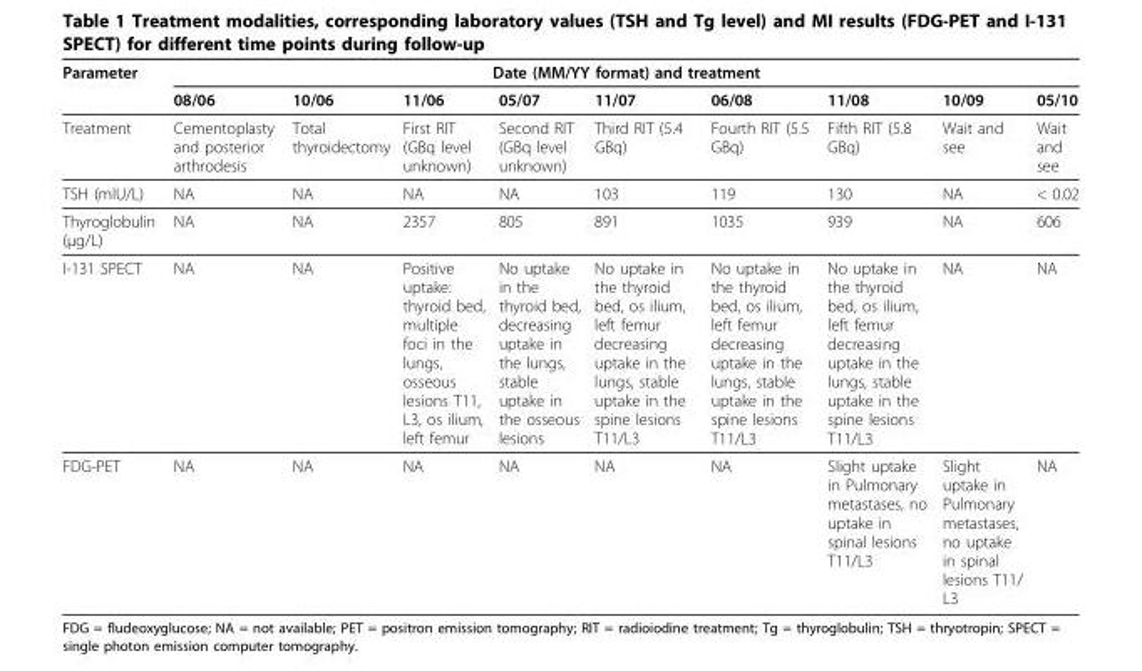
<table><thead><tr><td rowspan="2">Parameter</td><td colspan="9">Date (MM/YY format) and treatment</td></tr><tr><td>08/06</td><td>10/06</td><td>11/06</td><td>05/07</td><td>11/07</td><td>06/08</td><td>11/08</td><td>10/09</td><td>05/10</td></tr></thead><tbody><tr><td>Treatment</td><td>Cementoplasty and posterior arthrodesis</td><td>Total thyroidectomy</td><td>First RIT (GBq level unknown)</td><td>Second RIT (GBq level unknown)</td><td>Third RIT (5.4 GBq)</td><td>Fourth RIT (5.5 GBq)</td><td>Fifth RIT (5.8 GBq)</td><td>Wait and see</td><td>Wait and see</td></tr><tr><td>TSH (mIU/L)</td><td>NA</td><td>NA</td><td>NA</td><td>NA</td><td>103</td><td>119</td><td>130</td><td>NA</td><td>&lt; 0.02</td></tr><tr><td>Thyroglobulin (μg/L)</td><td>NA</td><td>NA</td><td>2357</td><td>805</td><td>891</td><td>1035</td><td>939</td><td>NA</td><td>606</td></tr><tr><td>I-131 SPECT</td><td>NA</td><td>NA</td><td>Positive uptake: thyroid bed, multiple foci in the lungs, osseous lesions T11, L3, os ilium, left femur</td><td>No uptake in the thyroid bed, decreasing uptake in the lungs, stable uptake in the osseous lesions</td><td>No uptake in the thyroid bed, os ilium, left femur decreasing uptake in the lungs, stable uptake in the spine lesions T11/L3</td><td>No uptake in the thyroid bed, os ilium, left femur decreasing uptake in the lungs, stable uptake in the spine lesions T11/L3</td><td>No uptake in the thyroid bed, os ilium, left femur decreasing uptake in the lungs, stable uptake in the spine lesions T11/L3</td><td>NA</td><td>NA</td></tr><tr><td>FDG-PET</td><td>NA</td><td>NA</td><td>NA</td><td>NA</td><td>NA</td><td>NA</td><td>Slight uptake in Pulmonary metastases, no uptake in spinal lesions T11/L3</td><td>Slight uptake in Pulmonary metastases, no uptake in spinal lesions T11/ L3</td><td>NA</td></tr></tbody></table>